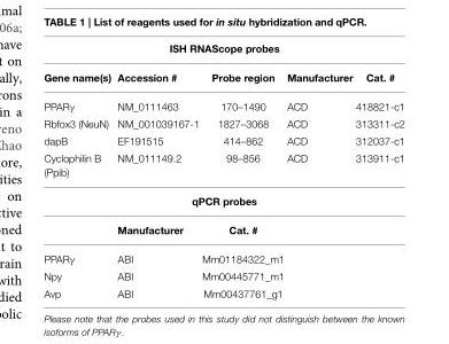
<table><thead><tr><td colspan="5">ISH RNAScope probes</td></tr><tr><td>Gene name(s)</td><td>Accession #</td><td>Probe region</td><td>Manufacturer</td><td>Cat. #</td></tr></thead><tbody><tr><td>PPARγ</td><td>NM_0111463</td><td>170–1490</td><td>ACD</td><td>418821-c1</td></tr><tr><td>Rbfox3 (NeuN)</td><td>NM_001039167-1</td><td>1827–3068</td><td>ACD</td><td>313311-c2</td></tr><tr><td>dapB</td><td>EF191515</td><td>414–862</td><td>ACD</td><td>312037-c1</td></tr><tr><td>Cyclophilin B (Ppib)</td><td>NM_011149.2</td><td>98–856</td><td>ACD</td><td>313911-c1</td></tr><tr><td colspan="5">qPCR probes</td></tr><tr><td></td><td>Manufacturer</td><td>Cat. #</td><td></td><td></td></tr><tr><td>PPARγ</td><td>ABI</td><td>Mm01184322_m1</td><td></td><td></td></tr><tr><td>Npy</td><td>ABI</td><td>Mm00445771_m1</td><td></td><td></td></tr><tr><td>Avp</td><td>ABI</td><td>Mm00437761_g1</td><td></td><td></td></tr></tbody></table>